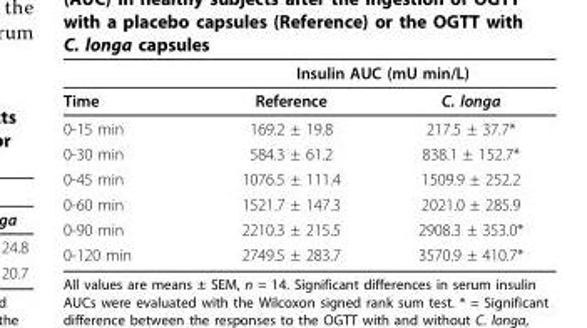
<table><thead><tr><td rowspan="2">Time</td><td colspan="2">Insulin AUC (mU min/L)</td></tr><tr><td>Reference</td><td>C. longa</td></tr></thead><tbody><tr><td>0-15 min</td><td>169.2 ± 19.8</td><td>217.5 ± 37.7*</td></tr><tr><td>0-30 min</td><td>584.3 ± 61.2</td><td>838.1 ± 152.7*</td></tr><tr><td>0-45 min</td><td>1076.5 ± 111.4</td><td>1509.9 ± 252.2</td></tr><tr><td>0-60 min</td><td>1521.7 ± 147.3</td><td>2021.0 ± 285.9</td></tr><tr><td>0-90 min</td><td>2210.3 ± 215.5</td><td>2908.3 ± 353.0*</td></tr><tr><td>0-120 min</td><td>2749.5 ± 283.7</td><td>3570.9 ± 410.7*</td></tr></tbody></table>